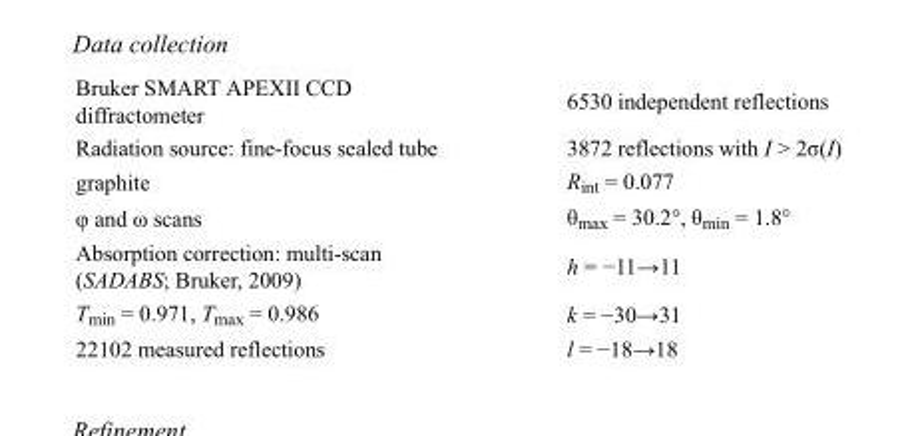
<table><tbody><tr><td>Bruker SMART APEXII CCD diffractometer</td><td>6530 independent reflections</td></tr><tr><td>Radiation source: fine-focus sealed tube</td><td>3872 reflections with I &gt; 2σ(I)</td></tr><tr><td>graphite</td><td>R<sub>int</sub> = 0.077</td></tr><tr><td>φ and ω scans</td><td>θ<sub>max</sub> = 30.2°, θ<sub>min</sub> = 1.8°</td></tr><tr><td>Absorption correction: multi-scan (SADABS; Bruker, 2009)</td><td>h = −11→11</td></tr><tr><td>T<sub>min</sub> = 0.971, T<sub>max</sub> = 0.986</td><td>k = −30→31</td></tr><tr><td>22102 measured reflections</td><td>l = −18→18</td></tr></tbody></table>